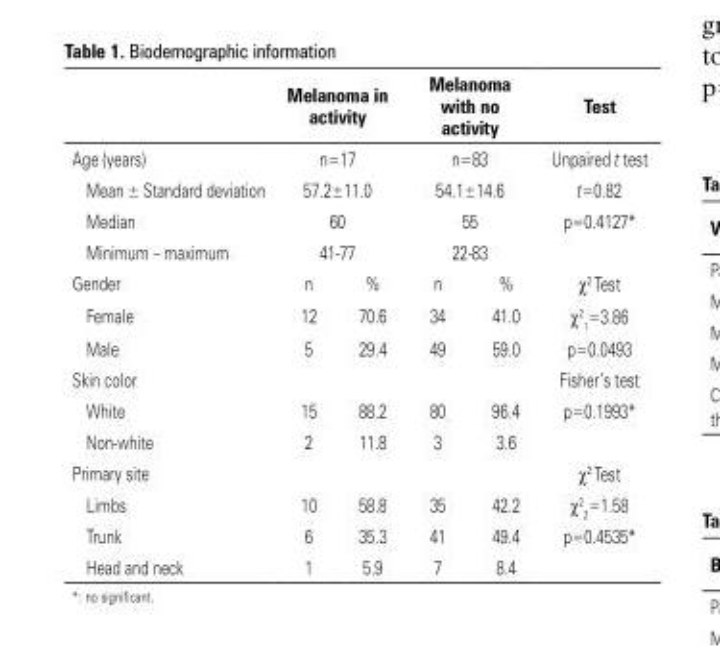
<table><thead><tr><td></td><td colspan="2">Melanoma in activity</td><td colspan="2">Melanoma with no activity</td><td>Test</td></tr></thead><tbody><tr><td>Age (years)</td><td colspan="2">n=17</td><td colspan="2">n=83</td><td>Unpaired t test</td></tr><tr><td>Mean ± Standard deviation</td><td colspan="2">57.2±11.0</td><td colspan="2">54.1±14.6</td><td>t=0.82</td></tr><tr><td>Median</td><td colspan="2">60</td><td colspan="2">55</td><td>p=0.4127*</td></tr><tr><td>Minimum – maximum</td><td>41-77</td><td></td><td colspan="2">22-83</td><td></td></tr><tr><td>Gender</td><td>n</td><td>%</td><td>n</td><td>%</td><td>χ<sup>2</sup> Test</td></tr><tr><td>Female</td><td>12</td><td>70.6</td><td>34</td><td>41.0</td><td>χ<sup>2</sup> <sub>1</sub>=3.86</td></tr><tr><td>Male</td><td>5</td><td>29.4</td><td>49</td><td>59.0</td><td>p=0.0493</td></tr><tr><td>Skin color</td><td></td><td></td><td></td><td></td><td>Fisher’s test</td></tr><tr><td>White</td><td>15</td><td>88.2</td><td>80</td><td>96.4</td><td>p=0.1993*</td></tr><tr><td>Non-white</td><td>2</td><td>11.8</td><td>3</td><td>3.6</td><td></td></tr><tr><td>Primary site</td><td></td><td></td><td></td><td></td><td>χ<sup>2</sup> Test</td></tr><tr><td>Limbs</td><td>10</td><td>58.8</td><td>35</td><td>42.2</td><td>χ<sup>2</sup> <sub>2</sub>=1.58</td></tr><tr><td>Trunk</td><td>6</td><td>35.3</td><td>41</td><td>49.4</td><td>p=0.4535*</td></tr><tr><td>Head and neck</td><td>1</td><td>5.9</td><td>7</td><td>8.4</td><td></td></tr></tbody></table>